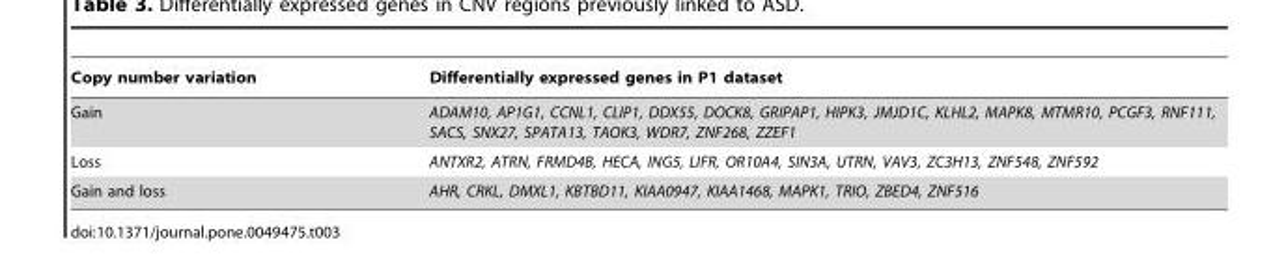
<table><thead><tr><td>Copy number variation</td><td>Differentially expressed genes in P1 dataset</td></tr></thead><tbody><tr><td>Gain</td><td>ADAM10, AP1G1, CCNL1, CLIP1, DDX55, DOCK8, GRIPAP1, HIPK3, JMJD1C, KLHL2, MAPK8, MTMR10, PCGF3, RNF111, SACS, SNX27, SPATA13, TAOK3, WDR7, ZNF268, ZZEF1</td></tr><tr><td>Loss</td><td>ANTXR2, ATRN, FRMD4B, HECA, ING5, LIFR, OR10A4, SIN3A, UTRN, VAV3, ZC3H13, ZNF548, ZNF592</td></tr><tr><td>Gain and loss</td><td>AHR, CRKL, DMXL1, KBTBD11, KIAA0947, KIAA1468, MAPK1, TRIO, ZBED4, ZNF516</td></tr></tbody></table>